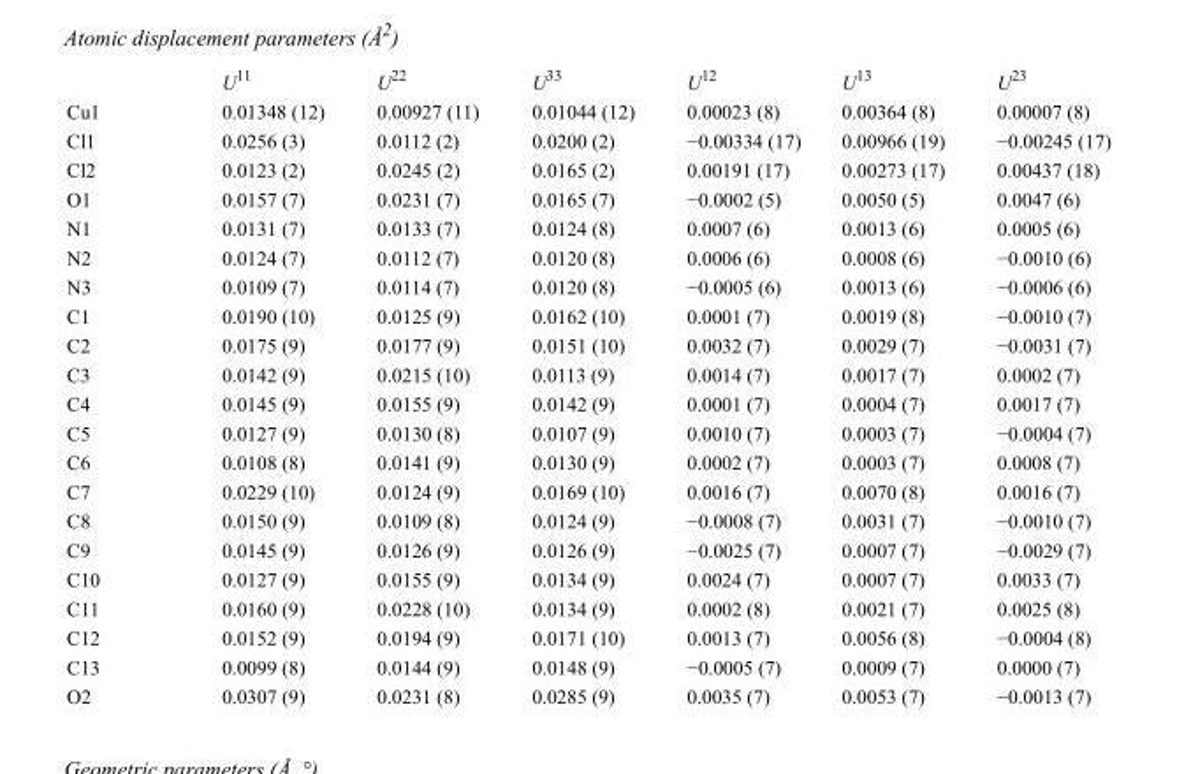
<table><thead><tr><td></td><td>U<sup>11</sup></td><td>U<sup>22</sup></td><td>U<sup>33</sup></td><td>U<sup>12</sup></td><td>U<sup>13</sup></td><td>U<sup>23</sup></td></tr></thead><tbody><tr><td>Cu1</td><td>0.01348 (12)</td><td>0.00927 (11)</td><td>0.01044 (12)</td><td>0.00023 (8)</td><td>0.00364 (8)</td><td>0.00007 (8)</td></tr><tr><td>Cl1</td><td>0.0256 (3)</td><td>0.0112 (2)</td><td>0.0200 (2)</td><td>−0.00334 (17)</td><td>0.00966 (19)</td><td>−0.00245 (17)</td></tr><tr><td>Cl2</td><td>0.0123 (2)</td><td>0.0245 (2)</td><td>0.0165 (2)</td><td>0.00191 (17)</td><td>0.00273 (17)</td><td>0.00437 (18)</td></tr><tr><td>O1</td><td>0.0157 (7)</td><td>0.0231 (7)</td><td>0.0165 (7)</td><td>−0.0002 (5)</td><td>0.0050 (5)</td><td>0.0047 (6)</td></tr><tr><td>N1</td><td>0.0131 (7)</td><td>0.0133 (7)</td><td>0.0124 (8)</td><td>0.0007 (6)</td><td>0.0013 (6)</td><td>0.0005 (6)</td></tr><tr><td>N2</td><td>0.0124 (7)</td><td>0.0112 (7)</td><td>0.0120 (8)</td><td>0.0006 (6)</td><td>0.0008 (6)</td><td>−0.0010 (6)</td></tr><tr><td>N3</td><td>0.0109 (7)</td><td>0.0114 (7)</td><td>0.0120 (8)</td><td>−0.0005 (6)</td><td>0.0013 (6)</td><td>−0.0006 (6)</td></tr><tr><td>C1</td><td>0.0190 (10)</td><td>0.0125 (9)</td><td>0.0162 (10)</td><td>0.0001 (7)</td><td>0.0019 (8)</td><td>−0.0010 (7)</td></tr><tr><td>C2</td><td>0.0175 (9)</td><td>0.0177 (9)</td><td>0.0151 (10)</td><td>0.0032 (7)</td><td>0.0029 (7)</td><td>−0.0031 (7)</td></tr><tr><td>C3</td><td>0.0142 (9)</td><td>0.0215 (10)</td><td>0.0113 (9)</td><td>0.0014 (7)</td><td>0.0017 (7)</td><td>0.0002 (7)</td></tr><tr><td>C4</td><td>0.0145 (9)</td><td>0.0155 (9)</td><td>0.0142 (9)</td><td>0.0001 (7)</td><td>0.0004 (7)</td><td>0.0017 (7)</td></tr><tr><td>C5</td><td>0.0127 (9)</td><td>0.0130 (8)</td><td>0.0107 (9)</td><td>0.0010 (7)</td><td>0.0003 (7)</td><td>−0.0004 (7)</td></tr><tr><td>C6</td><td>0.0108 (8)</td><td>0.0141 (9)</td><td>0.0130 (9)</td><td>0.0002 (7)</td><td>0.0003 (7)</td><td>0.0008 (7)</td></tr><tr><td>C7</td><td>0.0229 (10)</td><td>0.0124 (9)</td><td>0.0169 (10)</td><td>0.0016 (7)</td><td>0.0070 (8)</td><td>0.0016 (7)</td></tr><tr><td>C8</td><td>0.0150 (9)</td><td>0.0109 (8)</td><td>0.0124 (9)</td><td>−0.0008 (7)</td><td>0.0031 (7)</td><td>−0.0010 (7)</td></tr><tr><td>C9</td><td>0.0145 (9)</td><td>0.0126 (9)</td><td>0.0126 (9)</td><td>−0.0025 (7)</td><td>0.0007 (7)</td><td>−0.0029 (7)</td></tr><tr><td>C10</td><td>0.0127 (9)</td><td>0.0155 (9)</td><td>0.0134 (9)</td><td>0.0024 (7)</td><td>0.0007 (7)</td><td>0.0033 (7)</td></tr><tr><td>C11</td><td>0.0160 (9)</td><td>0.0228 (10)</td><td>0.0134 (9)</td><td>0.0002 (8)</td><td>0.0021 (7)</td><td>0.0025 (8)</td></tr><tr><td>C12</td><td>0.0152 (9)</td><td>0.0194 (9)</td><td>0.0171 (10)</td><td>0.0013 (7)</td><td>0.0056 (8)</td><td>−0.0004 (8)</td></tr><tr><td>C13</td><td>0.0099 (8)</td><td>0.0144 (9)</td><td>0.0148 (9)</td><td>−0.0005 (7)</td><td>0.0009 (7)</td><td>0.0000 (7)</td></tr><tr><td>O2</td><td>0.0307 (9)</td><td>0.0231 (8)</td><td>0.0285 (9)</td><td>0.0035 (7)</td><td>0.0053 (7)</td><td>−0.0013 (7)</td></tr></tbody></table>